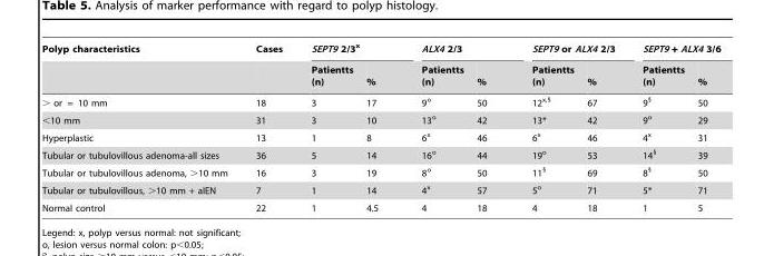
<table><thead><tr><td rowspan="2">Polyp characteristics</td><td rowspan="2">Cases</td><td colspan="2">SEPT9 2/3<sup>x</sup></td><td colspan="2">ALX4 2/3</td><td colspan="2">SEPT9 or ALX4 2/3</td><td colspan="2">SEPT9 + ALX4 3/6</td></tr><tr><td>Patientts (n)</td><td>%</td><td>Patientts (n)</td><td>%</td><td>Patientts (n)</td><td>%</td><td>Patientts (n)</td><td>%</td></tr></thead><tbody><tr><td>&gt; or = 10 mm</td><td>18</td><td>3</td><td>17</td><td>9<sup>o</sup></td><td>50</td><td>12<sup>x,</sup>§</td><td>67</td><td>9§</td><td>50</td></tr><tr><td>&lt;10 mm</td><td>31</td><td>3</td><td>10</td><td>13<sup>o</sup></td><td>42</td><td>13*</td><td>42</td><td>9<sup>o</sup></td><td>29</td></tr><tr><td>Hyperplastic</td><td>13</td><td>1</td><td>8</td><td>6<sup>x</sup></td><td>46</td><td>6<sup>x</sup></td><td>46</td><td>4<sup>x</sup></td><td>31</td></tr><tr><td>Tubular or tubulovillous adenoma-all sizes</td><td>36</td><td>5</td><td>14</td><td>16<sup>o</sup></td><td>44</td><td>19<sup>o</sup></td><td>53</td><td>14§</td><td>39</td></tr><tr><td>Tubular or tubulovillous adenoma, &gt;10 mm</td><td>16</td><td>3</td><td>19</td><td>8<sup>o</sup></td><td>50</td><td>11§</td><td>69</td><td>8§</td><td>50</td></tr><tr><td>Tubular or tubulovillous, &gt;10 mm + aIEN</td><td>7</td><td>1</td><td>14</td><td>4<sup>x</sup></td><td>57</td><td>5<sup>o</sup></td><td>71</td><td>5*</td><td>71</td></tr><tr><td>Normal control</td><td>22</td><td>1</td><td>4.5</td><td>4</td><td>18</td><td>4</td><td>18</td><td>1</td><td>5</td></tr></tbody></table>